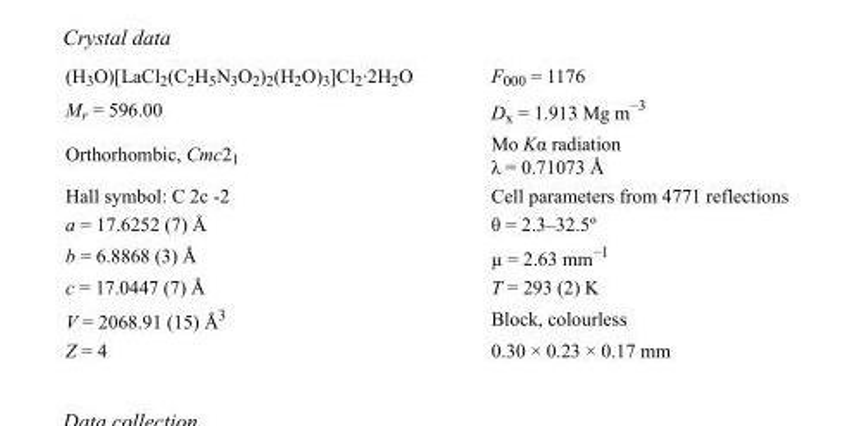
<table><tbody><tr><td>(H<sub>3</sub>O)[LaCl<sub>2</sub>(C<sub>2</sub>H<sub>5</sub>N<sub>3</sub>O<sub>2</sub>)<sub>2</sub>(H<sub>2</sub>O)<sub>3</sub>]Cl<sub>2</sub>·2H<sub>2</sub>O</td><td>F<sub>000</sub> = 1176</td></tr><tr><td>M<sub>r</sub> = 596.00</td><td>D<sub>x</sub> = 1.913 Mg m<sup>−3</sup></td></tr><tr><td>Orthorhombic, Cmc2<sub>1</sub></td><td>Mo Kα radiation λ = 0.71073 Å</td></tr><tr><td>Hall symbol: C 2c -2</td><td>Cell parameters from 4771 reflections</td></tr><tr><td>a = 17.6252 (7) Å</td><td>θ = 2.3–32.5º</td></tr><tr><td>b = 6.8868 (3) Å</td><td>µ = 2.63 mm<sup>−1</sup></td></tr><tr><td>c = 17.0447 (7) Å</td><td>T = 293 (2) K</td></tr><tr><td>V = 2068.91 (15) Å<sup>3</sup></td><td>Block, colourless</td></tr><tr><td>Z = 4</td><td>0.30 × 0.23 × 0.17 mm</td></tr></tbody></table>